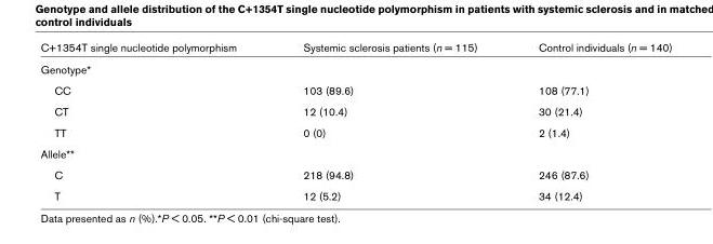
<table><thead><tr><td>C+1354T single nucleotide polymorphism</td><td>Systemic sclerosis patients (n = 115)</td><td>Control individuals (n = 140)</td></tr></thead><tbody><tr><td colspan="3">Genotype*</td></tr><tr><td>CC</td><td>103 (89.6)</td><td>108 (77.1)</td></tr><tr><td>CT</td><td>12 (10.4)</td><td>30 (21.4)</td></tr><tr><td>TT</td><td>0 (0)</td><td>2 (1.4)</td></tr><tr><td colspan="3">Allele**</td></tr><tr><td>C</td><td>218 (94.8)</td><td>246 (87.6)</td></tr><tr><td>T</td><td>12 (5.2)</td><td>34 (12.4)</td></tr></tbody></table>